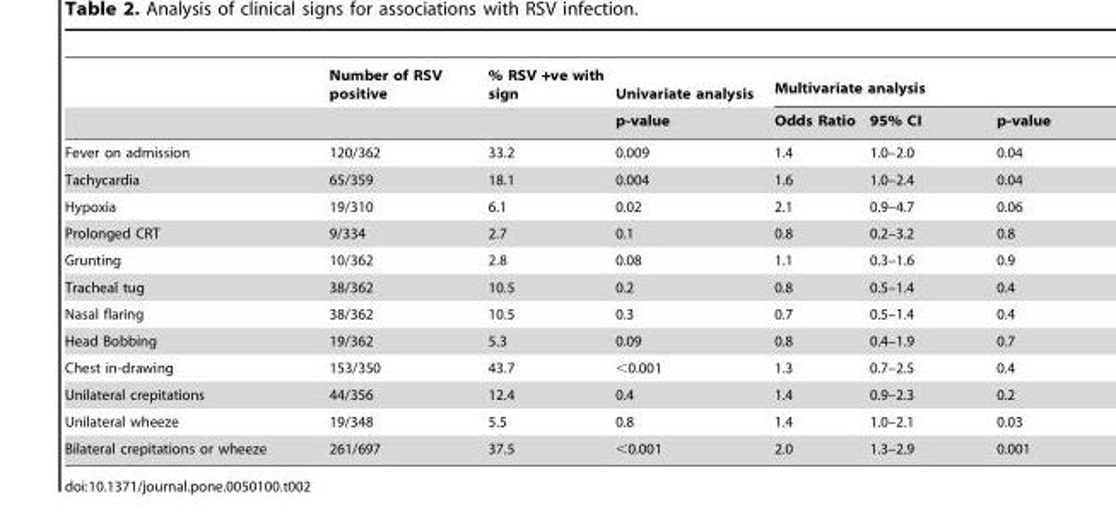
<table><thead><tr><td rowspan="2"></td><td rowspan="2">Number of RSV positive</td><td rowspan="2">% RSV +ve with sign</td><td rowspan="2">Univariate analysis p-value</td><td colspan="3">Multivariate analysis</td></tr><tr><td>Odds Ratio</td><td>95% CI</td><td>p-value</td></tr></thead><tbody><tr><td>Fever on admission</td><td>120/362</td><td>33.2</td><td>0.009</td><td>1.4</td><td>1.0–2.0</td><td>0.04</td></tr><tr><td>Tachycardia</td><td>65/359</td><td>18.1</td><td>0.004</td><td>1.6</td><td>1.0–2.4</td><td>0.04</td></tr><tr><td>Hypoxia</td><td>19/310</td><td>6.1</td><td>0.02</td><td>2.1</td><td>0.9–4.7</td><td>0.06</td></tr><tr><td>Prolonged CRT</td><td>9/334</td><td>2.7</td><td>0.1</td><td>0.8</td><td>0.2–3.2</td><td>0.8</td></tr><tr><td>Grunting</td><td>10/362</td><td>2.8</td><td>0.08</td><td>1.1</td><td>0.3–1.6</td><td>0.9</td></tr><tr><td>Tracheal tug</td><td>38/362</td><td>10.5</td><td>0.2</td><td>0.8</td><td>0.5–1.4</td><td>0.4</td></tr><tr><td>Nasal flaring</td><td>38/362</td><td>10.5</td><td>0.3</td><td>0.7</td><td>0.5–1.4</td><td>0.4</td></tr><tr><td>Head Bobbing</td><td>19/362</td><td>5.3</td><td>0.09</td><td>0.8</td><td>0.4–1.9</td><td>0.7</td></tr><tr><td>Chest in-drawing</td><td>153/350</td><td>43.7</td><td>&lt;0.001</td><td>1.3</td><td>0.7–2.5</td><td>0.4</td></tr><tr><td>Unilateral crepitations</td><td>44/356</td><td>12.4</td><td>0.4</td><td>1.4</td><td>0.9–2.3</td><td>0.2</td></tr><tr><td>Unilateral wheeze</td><td>19/348</td><td>5.5</td><td>0.8</td><td>1.4</td><td>1.0–2.1</td><td>0.03</td></tr><tr><td>Bilateral crepitations or wheeze</td><td>261/697</td><td>37.5</td><td>&lt;0.001</td><td>2.0</td><td>1.3–2.9</td><td>0.001</td></tr></tbody></table>